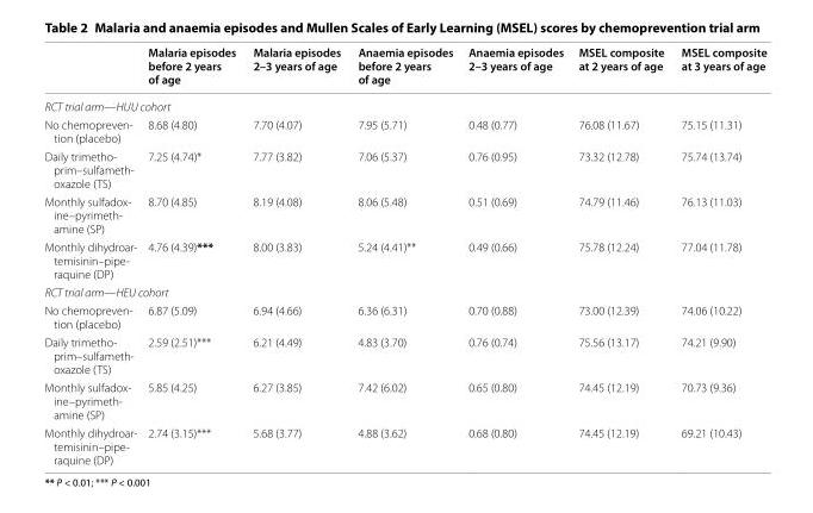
<table><thead><tr><td></td><td>Malaria episodes before 2 years of age</td><td>Malaria episodes 2–3 years of age</td><td>Anaemia episodes before 2 years of age</td><td>Anaemia episodes 2–3 years of age</td><td>MSEL composite at 2 years of age</td><td>MSEL composite at 3 years of age</td></tr></thead><tbody><tr><td colspan="7">RCT trial arm—HUU cohort</td></tr><tr><td>No chemopreven‑ tion (placebo)</td><td>8.68 (4.80)</td><td>7.70 (4.07)</td><td>7.95 (5.71)</td><td>0.48 (0.77)</td><td>76.08 (11.67)</td><td>75.15 (11.31)</td></tr><tr><td>Daily trimetho‑ prim–sulfameth‑ oxazole (TS)</td><td>7.25 (4.74)*</td><td>7.77 (3.82)</td><td>7.06 (5.37)</td><td>0.76 (0.95)</td><td>73.32 (12.78)</td><td>75.74 (13.74)</td></tr><tr><td>Monthly sulfadox‑ ine–pyrimeth‑ amine (SP)</td><td>8.70 (4.85)</td><td>8.19 (4.08)</td><td>8.06 (5.48)</td><td>0.51 (0.69)</td><td>74.79 (11.46)</td><td>76.13 (11.03)</td></tr><tr><td>Monthly dihydroar‑ temisinin–pipe‑ raquine (DP)</td><td>4.76 (4.39)***</td><td>8.00 (3.83)</td><td>5.24 (4.41)**</td><td>0.49 (0.66)</td><td>75.78 (12.24)</td><td>77.04 (11.78)</td></tr><tr><td colspan="7">RCT trial arm—HEU cohort</td></tr><tr><td>No chemopreven‑ tion (placebo)</td><td>6.87 (5.09)</td><td>6.94 (4.66)</td><td>6.36 (6.31)</td><td>0.70 (0.88)</td><td>73.00 (12.39)</td><td>74.06 (10.22)</td></tr><tr><td>Daily trimetho‑ prim–sulfameth‑ oxazole (TS)</td><td>2.59 (2.51)***</td><td>6.21 (4.49)</td><td>4.83 (3.70)</td><td>0.76 (0.74)</td><td>75.56 (13.17)</td><td>74.21 (9.90)</td></tr><tr><td>Monthly sulfadox‑ ine–pyrimeth‑ amine (SP)</td><td>5.85 (4.25)</td><td>6.27 (3.85)</td><td>7.42 (6.02)</td><td>0.65 (0.80)</td><td>74.45 (12.19)</td><td>70.73 (9.36)</td></tr><tr><td>Monthly dihydroar‑ temisinin–pipe‑ raquine (DP)</td><td>2.74 (3.15)***</td><td>5.68 (3.77)</td><td>4.88 (3.62)</td><td>0.68 (0.80)</td><td>74.45 (12.19)</td><td>69.21 (10.43)</td></tr></tbody></table>